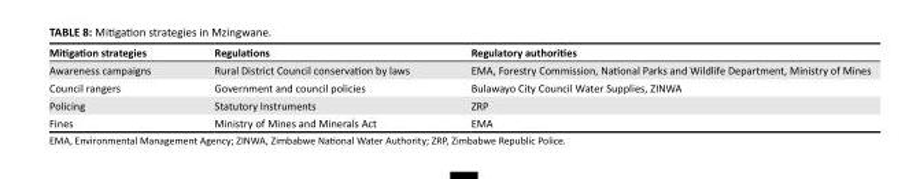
<table><thead><tr><td>Mitigation strategies</td><td>Regulations</td><td>Regulatory authorities</td></tr></thead><tbody><tr><td>Awareness campaigns</td><td>Rural District Council conservation by laws</td><td>EMA, Forestry Commission, National Parks and Wildlife Department, Ministry of Mines</td></tr><tr><td>Council rangers</td><td>Government and council policies</td><td>Bulawayo City Council Water Supplies, ZINWA</td></tr><tr><td>Policing</td><td>Statutory Instruments</td><td>ZRP</td></tr><tr><td>Fines</td><td>Ministry of Mines and Minerals Act</td><td>EMA</td></tr></tbody></table>